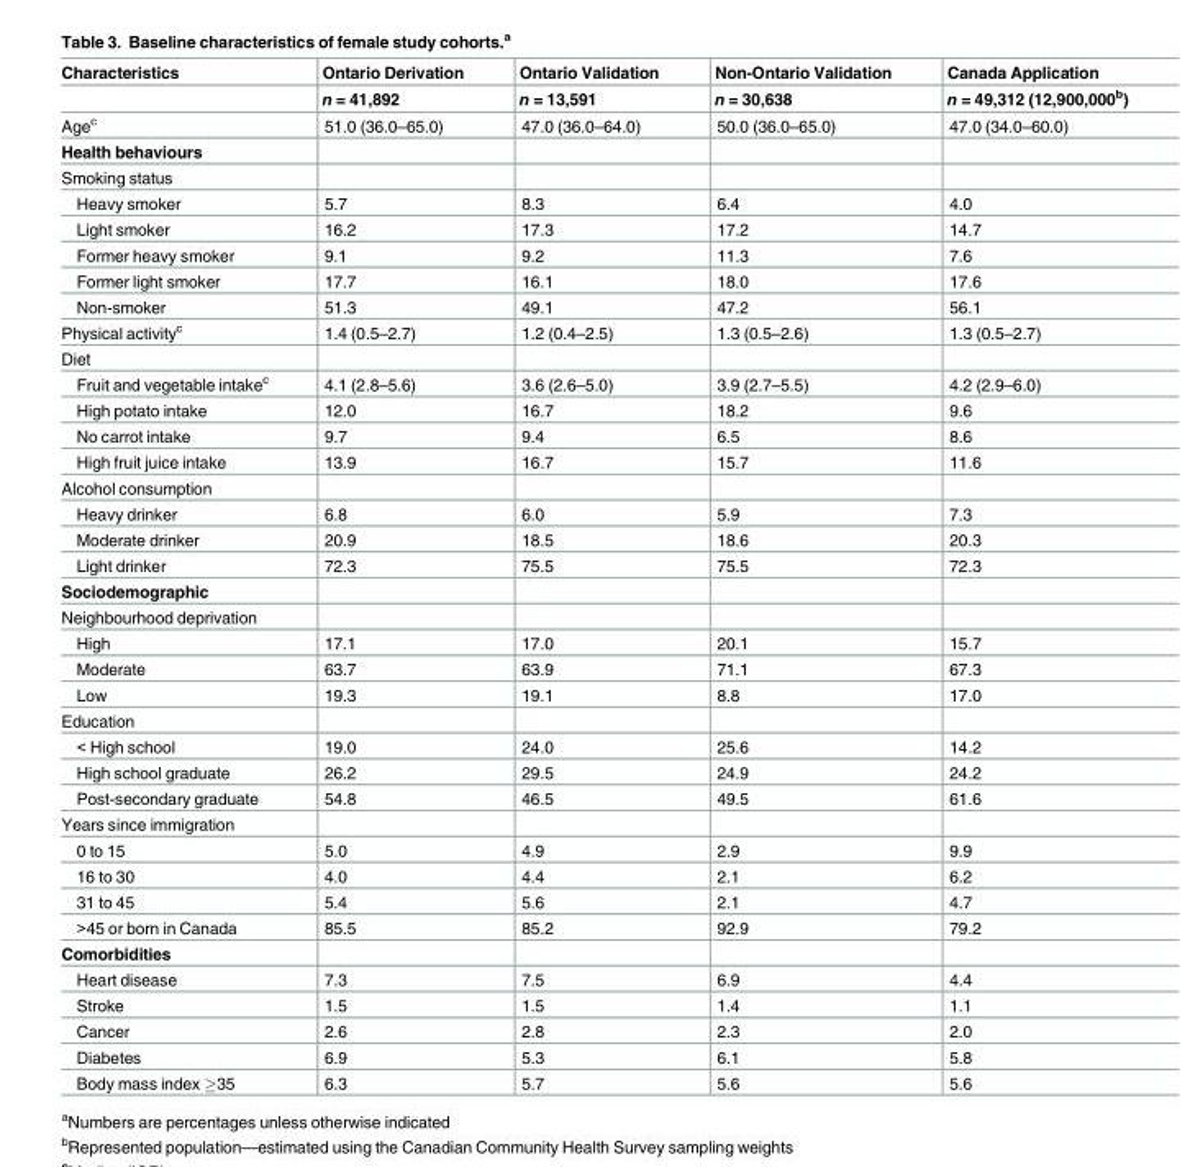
<table><thead><tr><td rowspan="2">Characteristics</td><td rowspan="2">Ontario Derivation n = 41,892</td><td rowspan="2">Ontario Validation n = 13,591</td><td rowspan="2">Non-Ontario Validation n = 30,638</td><td rowspan="2">Canada Application n = 49,312 (12,900,000<sup>b</sup>)</td></tr><tr></tr></thead><tbody><tr><td>Age<sup>c</sup></td><td>51.0 (36.0–65.0)</td><td>47.0 (36.0–64.0)</td><td>50.0 (36.0–65.0)</td><td>47.0 (34.0–60.0)</td></tr><tr><td colspan="5">Health behaviours</td></tr><tr><td colspan="5">Smoking status</td></tr><tr><td>Heavy smoker</td><td>5.7</td><td>8.3</td><td>6.4</td><td>4.0</td></tr><tr><td>Light smoker</td><td>16.2</td><td>17.3</td><td>17.2</td><td>14.7</td></tr><tr><td>Former heavy smoker</td><td>9.1</td><td>9.2</td><td>11.3</td><td>7.6</td></tr><tr><td>Former light smoker</td><td>17.7</td><td>16.1</td><td>18.0</td><td>17.6</td></tr><tr><td>Non-smoker</td><td>51.3</td><td>49.1</td><td>47.2</td><td>56.1</td></tr><tr><td>Physical activity<sup>c</sup></td><td>1.4 (0.5–2.7)</td><td>1.2 (0.4–2.5)</td><td>1.3 (0.5–2.6)</td><td>1.3 (0.5–2.7)</td></tr><tr><td colspan="5">Diet</td></tr><tr><td>Fruit and vegetable intake<sup>c</sup></td><td>4.1 (2.8–5.6)</td><td>3.6 (2.6–5.0)</td><td>3.9 (2.7–5.5)</td><td>4.2 (2.9–6.0)</td></tr><tr><td>High potato intake</td><td>12.0</td><td>16.7</td><td>18.2</td><td>9.6</td></tr><tr><td>No carrot intake</td><td>9.7</td><td>9.4</td><td>6.5</td><td>8.6</td></tr><tr><td>High fruit juice intake</td><td>13.9</td><td>16.7</td><td>15.7</td><td>11.6</td></tr><tr><td colspan="5">Alcohol consumption</td></tr><tr><td>Heavy drinker</td><td>6.8</td><td>6.0</td><td>5.9</td><td>7.3</td></tr><tr><td>Moderate drinker</td><td>20.9</td><td>18.5</td><td>18.6</td><td>20.3</td></tr><tr><td>Light drinker</td><td>72.3</td><td>75.5</td><td>75.5</td><td>72.3</td></tr><tr><td colspan="5">Sociodemographic</td></tr><tr><td colspan="5">Neighbourhood deprivation</td></tr><tr><td>High</td><td>17.1</td><td>17.0</td><td>20.1</td><td>15.7</td></tr><tr><td>Moderate</td><td>63.7</td><td>63.9</td><td>71.1</td><td>67.3</td></tr><tr><td>Low</td><td>19.3</td><td>19.1</td><td>8.8</td><td>17.0</td></tr><tr><td colspan="5">Education</td></tr><tr><td>&lt; High school</td><td>19.0</td><td>24.0</td><td>25.6</td><td>14.2</td></tr><tr><td>High school graduate</td><td>26.2</td><td>29.5</td><td>24.9</td><td>24.2</td></tr><tr><td>Post-secondary graduate</td><td>54.8</td><td>46.5</td><td>49.5</td><td>61.6</td></tr><tr><td colspan="5">Years since immigration</td></tr><tr><td>0 to 15</td><td>5.0</td><td>4.9</td><td>2.9</td><td>9.9</td></tr><tr><td>16 to 30</td><td>4.0</td><td>4.4</td><td>2.1</td><td>6.2</td></tr><tr><td>31 to 45</td><td>5.4</td><td>5.6</td><td>2.1</td><td>4.7</td></tr><tr><td>&gt;45 or born in Canada</td><td>85.5</td><td>85.2</td><td>92.9</td><td>79.2</td></tr><tr><td colspan="5">Comorbidities</td></tr><tr><td>Heart disease</td><td>7.3</td><td>7.5</td><td>6.9</td><td>4.4</td></tr><tr><td>Stroke</td><td>1.5</td><td>1.5</td><td>1.4</td><td>1.1</td></tr><tr><td>Cancer</td><td>2.6</td><td>2.8</td><td>2.3</td><td>2.0</td></tr><tr><td>Diabetes</td><td>6.9</td><td>5.3</td><td>6.1</td><td>5.8</td></tr><tr><td>Body mass index ≥35</td><td>6.3</td><td>5.7</td><td>5.6</td><td>5.6</td></tr></tbody></table>